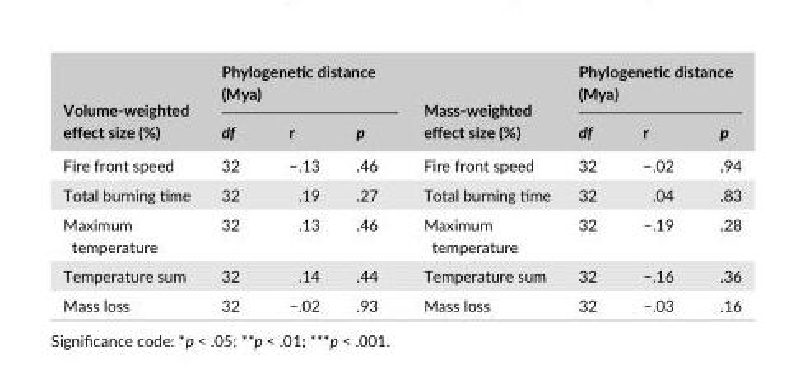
<table><thead><tr><td rowspan="2">Volume- weighted effect size (%)</td><td colspan="3">Phylogenetic distance (Mya)</td><td rowspan="2">Mass- weighted effect size (%)</td><td colspan="3">Phylogenetic distance (Mya)</td></tr><tr><td>df</td><td>r</td><td>p</td><td>df</td><td>r</td><td>p</td></tr></thead><tbody><tr><td>Fire front speed</td><td>32</td><td>−.13</td><td>.46</td><td>Fire front speed</td><td>32</td><td>−.02</td><td>.94</td></tr><tr><td>Total burning time</td><td>32</td><td>.19</td><td>.27</td><td>Total burning time</td><td>32</td><td>.04</td><td>.83</td></tr><tr><td>Maximum temperature</td><td>32</td><td>.13</td><td>.46</td><td>Maximum temperature</td><td>32</td><td>−.19</td><td>.28</td></tr><tr><td>Temperature sum</td><td>32</td><td>.14</td><td>.44</td><td>Temperature sum</td><td>32</td><td>−.16</td><td>.36</td></tr><tr><td>Mass loss</td><td>32</td><td>−.02</td><td>.93</td><td>Mass loss</td><td>32</td><td>−.03</td><td>.16</td></tr></tbody></table>